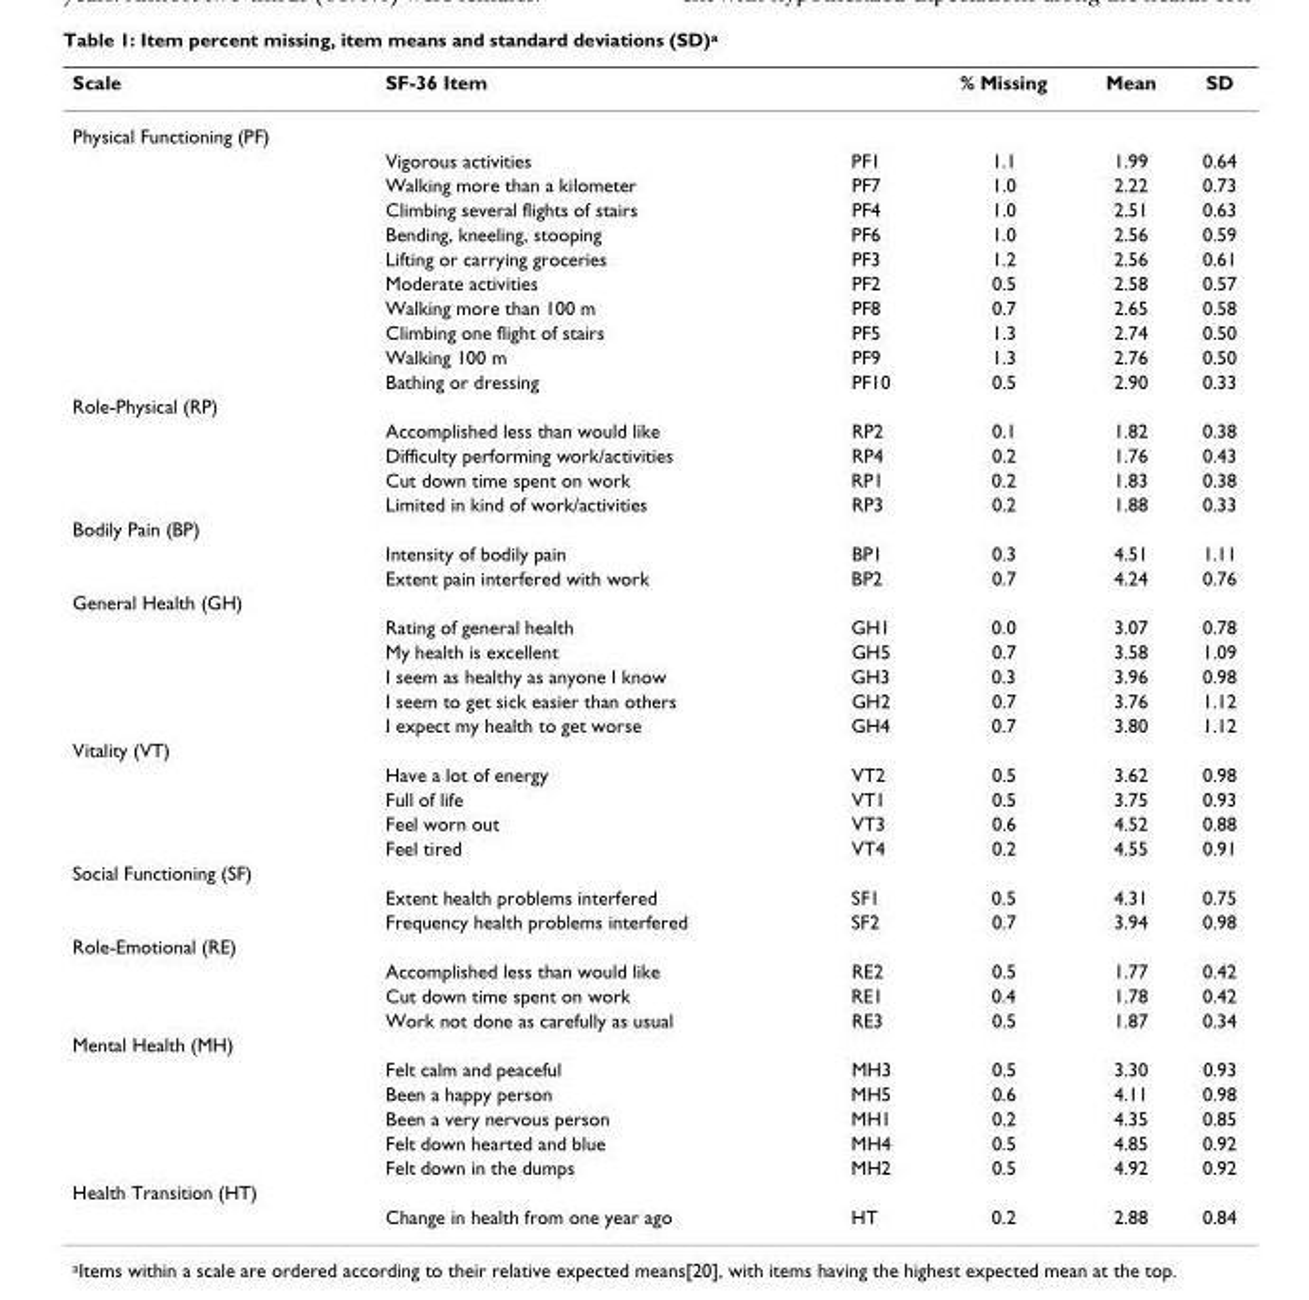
<table><thead><tr><td>Scale</td><td>SF-36 Item</td><td></td><td>% Missing</td><td>Mean</td><td>SD</td></tr></thead><tbody><tr><td colspan="6">Physical Functioning (PF)</td></tr><tr><td></td><td>Vigorous activities</td><td>PF1</td><td>1.1</td><td>1.99</td><td>0.64</td></tr><tr><td></td><td>Walking more than a kilometer</td><td>PF7</td><td>1.0</td><td>2.22</td><td>0.73</td></tr><tr><td></td><td>Climbing several flights of stairs</td><td>PF4</td><td>1.0</td><td>2.51</td><td>0.63</td></tr><tr><td></td><td>Bending, kneeling, stooping</td><td>PF6</td><td>1.0</td><td>2.56</td><td>0.59</td></tr><tr><td></td><td>Lifting or carrying groceries</td><td>PF3</td><td>1.2</td><td>2.56</td><td>0.61</td></tr><tr><td></td><td>Moderate activities</td><td>PF2</td><td>0.5</td><td>2.58</td><td>0.57</td></tr><tr><td></td><td>Walking more than 100 m</td><td>PF8</td><td>0.7</td><td>2.65</td><td>0.58</td></tr><tr><td></td><td>Climbing one flight of stairs</td><td>PF5</td><td>1.3</td><td>2.74</td><td>0.50</td></tr><tr><td></td><td>Walking 100 m</td><td>PF9</td><td>1.3</td><td>2.76</td><td>0.50</td></tr><tr><td></td><td>Bathing or dressing</td><td>PF10</td><td>0.5</td><td>2.90</td><td>0.33</td></tr><tr><td colspan="6">Role-Physical (RP)</td></tr><tr><td></td><td>Accomplished less than would like</td><td>RP2</td><td>0.1</td><td>1.82</td><td>0.38</td></tr><tr><td></td><td>Difficulty performing work/activities</td><td>RP4</td><td>0.2</td><td>1.76</td><td>0.43</td></tr><tr><td></td><td>Cut down time spent on work</td><td>RP1</td><td>0.2</td><td>1.83</td><td>0.38</td></tr><tr><td></td><td>Limited in kind of work/activities</td><td>RP3</td><td>0.2</td><td>1.88</td><td>0.33</td></tr><tr><td colspan="6">Bodily Pain (BP)</td></tr><tr><td></td><td>Intensity of bodily pain</td><td>BP1</td><td>0.3</td><td>4.51</td><td>1.11</td></tr><tr><td></td><td>Extent pain interfered with work</td><td>BP2</td><td>0.7</td><td>4.24</td><td>0.76</td></tr><tr><td colspan="6">General Health (GH)</td></tr><tr><td></td><td>Rating of general health</td><td>GH1</td><td>0.0</td><td>3.07</td><td>0.78</td></tr><tr><td></td><td>My health is excellent</td><td>GH5</td><td>0.7</td><td>3.58</td><td>1.09</td></tr><tr><td></td><td>I seem as healthy as anyone I know</td><td>GH3</td><td>0.3</td><td>3.96</td><td>0.98</td></tr><tr><td></td><td>I seem to get sick easier than others</td><td>GH2</td><td>0.7</td><td>3.76</td><td>1.12</td></tr><tr><td></td><td>I expect my health to get worse</td><td>GH4</td><td>0.7</td><td>3.80</td><td>1.12</td></tr><tr><td colspan="6">Vitality (VT)</td></tr><tr><td></td><td>Have a lot of energy</td><td>VT2</td><td>0.5</td><td>3.62</td><td>0.98</td></tr><tr><td></td><td>Full of life</td><td>VT1</td><td>0.5</td><td>3.75</td><td>0.93</td></tr><tr><td></td><td>Feel worn out</td><td>VT3</td><td>0.6</td><td>4.52</td><td>0.88</td></tr><tr><td></td><td>Feel tired</td><td>VT4</td><td>0.2</td><td>4.55</td><td>0.91</td></tr><tr><td colspan="6">Social Functioning (SF)</td></tr><tr><td></td><td>Extent health problems interfered</td><td>SF1</td><td>0.5</td><td>4.31</td><td>0.75</td></tr><tr><td></td><td>Frequency health problems interfered</td><td>SF2</td><td>0.7</td><td>3.94</td><td>0.98</td></tr><tr><td colspan="6">Role-Emotional (RE)</td></tr><tr><td></td><td>Accomplished less than would like</td><td>RE2</td><td>0.5</td><td>1.77</td><td>0.42</td></tr><tr><td></td><td>Cut down time spent on work</td><td>RE1</td><td>0.4</td><td>1.78</td><td>0.42</td></tr><tr><td></td><td>Work not done as carefully as usual</td><td>RE3</td><td>0.5</td><td>1.87</td><td>0.34</td></tr><tr><td colspan="6">Mental Health (MH)</td></tr><tr><td></td><td>Felt calm and peaceful</td><td>MH3</td><td>0.5</td><td>3.30</td><td>0.93</td></tr><tr><td></td><td>Been a happy person</td><td>MH5</td><td>0.6</td><td>4.11</td><td>0.98</td></tr><tr><td></td><td>Been a very nervous person</td><td>MH1</td><td>0.2</td><td>4.35</td><td>0.85</td></tr><tr><td></td><td>Felt down hearted and blue</td><td>MH4</td><td>0.5</td><td>4.85</td><td>0.92</td></tr><tr><td></td><td>Felt down in the dumps</td><td>MH2</td><td>0.5</td><td>4.92</td><td>0.92</td></tr><tr><td colspan="6">Health Transition (HT)</td></tr><tr><td></td><td>Change in health from one year ago</td><td>HT</td><td>0.2</td><td>2.88</td><td>0.84</td></tr></tbody></table>